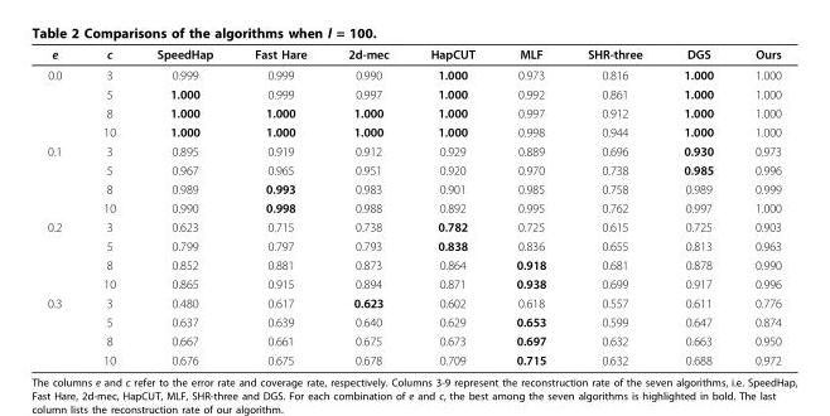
<table><thead><tr><td>e</td><td>c</td><td>SpeedHap</td><td>Fast Hare</td><td>2d-mec</td><td>HapCUT</td><td>MLF</td><td>SHR-three</td><td>DGS</td><td>Ours</td></tr></thead><tbody><tr><td rowspan="4">0.0</td><td>3</td><td>0.999</td><td>0.999</td><td>0.990</td><td>1.000</td><td>0.973</td><td>0.816</td><td>1.000</td><td>1.000</td></tr><tr><td>5</td><td>1.000</td><td>0.999</td><td>0.997</td><td>1.000</td><td>0.992</td><td>0.861</td><td>1.000</td><td>1.000</td></tr><tr><td>8</td><td>1.000</td><td>1.000</td><td>1.000</td><td>1.000</td><td>0.997</td><td>0.912</td><td>1.000</td><td>1.000</td></tr><tr><td>10</td><td>1.000</td><td>1.000</td><td>1.000</td><td>1.000</td><td>0.998</td><td>0.944</td><td>1.000</td><td>1.000</td></tr><tr><td rowspan="4">0.1</td><td>3</td><td>0.895</td><td>0.919</td><td>0.912</td><td>0.929</td><td>0.889</td><td>0.696</td><td>0.930</td><td>0.973</td></tr><tr><td>5</td><td>0.967</td><td>0.965</td><td>0.951</td><td>0.920</td><td>0.970</td><td>0.738</td><td>0.985</td><td>0.996</td></tr><tr><td>8</td><td>0.989</td><td>0.993</td><td>0.983</td><td>0.901</td><td>0.985</td><td>0.758</td><td>0.989</td><td>0.999</td></tr><tr><td>10</td><td>0.990</td><td>0.998</td><td>0.988</td><td>0.892</td><td>0.995</td><td>0.762</td><td>0.997</td><td>1.000</td></tr><tr><td rowspan="4">0.2</td><td>3</td><td>0.623</td><td>0.715</td><td>0.738</td><td>0.782</td><td>0.725</td><td>0.615</td><td>0.725</td><td>0.903</td></tr><tr><td>5</td><td>0.799</td><td>0.797</td><td>0.793</td><td>0.838</td><td>0.836</td><td>0.655</td><td>0.813</td><td>0.963</td></tr><tr><td>8</td><td>0.852</td><td>0.881</td><td>0.873</td><td>0.864</td><td>0.918</td><td>0.681</td><td>0.878</td><td>0.990</td></tr><tr><td>10</td><td>0.865</td><td>0.915</td><td>0.894</td><td>0.871</td><td>0.938</td><td>0.699</td><td>0.917</td><td>0.996</td></tr><tr><td rowspan="4">0.3</td><td>3</td><td>0.480</td><td>0.617</td><td>0.623</td><td>0.602</td><td>0.618</td><td>0.557</td><td>0.611</td><td>0.776</td></tr><tr><td>5</td><td>0.637</td><td>0.639</td><td>0.640</td><td>0.629</td><td>0.653</td><td>0.599</td><td>0.647</td><td>0.874</td></tr><tr><td>8</td><td>0.667</td><td>0.661</td><td>0.675</td><td>0.673</td><td>0.697</td><td>0.632</td><td>0.663</td><td>0.950</td></tr><tr><td>10</td><td>0.676</td><td>0.675</td><td>0.678</td><td>0.709</td><td>0.715</td><td>0.632</td><td>0.688</td><td>0.972</td></tr></tbody></table>